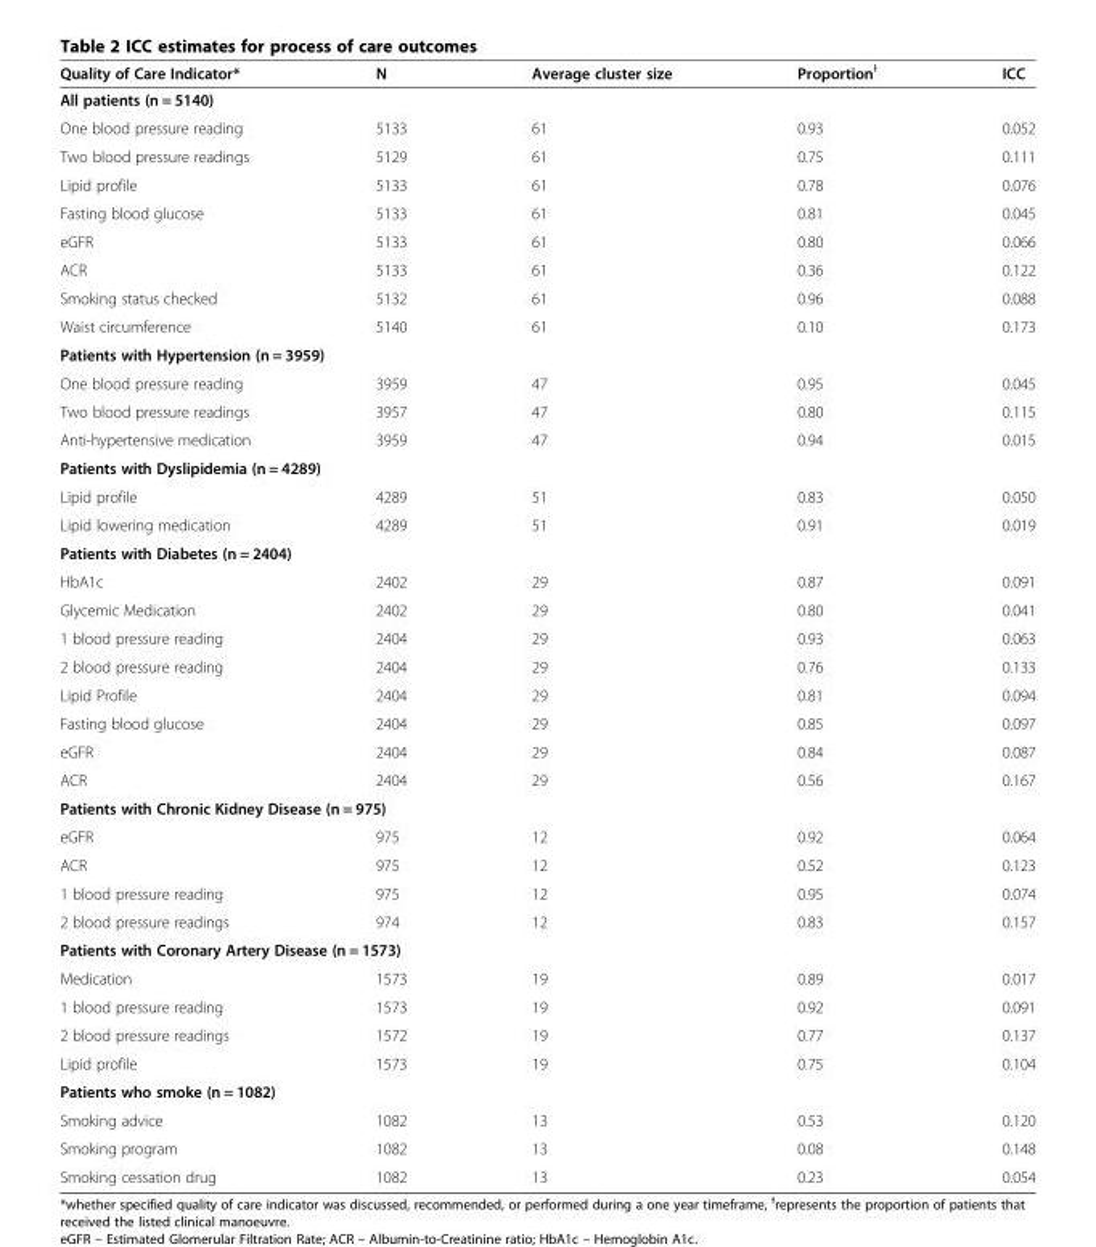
<table><thead><tr><td>Quality of Care Indicator*</td><td>N</td><td>Average cluster size</td><td>Proportion<sup>Ɨ</sup></td><td>ICC</td></tr></thead><tbody><tr><td colspan="5">All patients (n = 5140)</td></tr><tr><td>One blood pressure reading</td><td>5133</td><td>61</td><td>0.93</td><td>0.052</td></tr><tr><td>Two blood pressure readings</td><td>5129</td><td>61</td><td>0.75</td><td>0.111</td></tr><tr><td>Lipid profile</td><td>5133</td><td>61</td><td>0.78</td><td>0.076</td></tr><tr><td>Fasting blood glucose</td><td>5133</td><td>61</td><td>0.81</td><td>0.045</td></tr><tr><td>eGFR</td><td>5133</td><td>61</td><td>0.80</td><td>0.066</td></tr><tr><td>ACR</td><td>5133</td><td>61</td><td>0.36</td><td>0.122</td></tr><tr><td>Smoking status checked</td><td>5132</td><td>61</td><td>0.96</td><td>0.088</td></tr><tr><td>Waist circumference</td><td>5140</td><td>61</td><td>0.10</td><td>0.173</td></tr><tr><td colspan="5">Patients with Hypertension (n = 3959)</td></tr><tr><td>One blood pressure reading</td><td>3959</td><td>47</td><td>0.95</td><td>0.045</td></tr><tr><td>Two blood pressure readings</td><td>3957</td><td>47</td><td>0.80</td><td>0.115</td></tr><tr><td>Anti-hypertensive medication</td><td>3959</td><td>47</td><td>0.94</td><td>0.015</td></tr><tr><td colspan="5">Patients with Dyslipidemia (n = 4289)</td></tr><tr><td>Lipid profile</td><td>4289</td><td>51</td><td>0.83</td><td>0.050</td></tr><tr><td>Lipid lowering medication</td><td>4289</td><td>51</td><td>0.91</td><td>0.019</td></tr><tr><td colspan="5">Patients with Diabetes (n = 2404)</td></tr><tr><td>HbA1c</td><td>2402</td><td>29</td><td>0.87</td><td>0.091</td></tr><tr><td>Glycemic Medication</td><td>2402</td><td>29</td><td>0.80</td><td>0.041</td></tr><tr><td>1 blood pressure reading</td><td>2404</td><td>29</td><td>0.93</td><td>0.063</td></tr><tr><td>2 blood pressure reading</td><td>2404</td><td>29</td><td>0.76</td><td>0.133</td></tr><tr><td>Lipid Profile</td><td>2404</td><td>29</td><td>0.81</td><td>0.094</td></tr><tr><td>Fasting blood glucose</td><td>2404</td><td>29</td><td>0.85</td><td>0.097</td></tr><tr><td>eGFR</td><td>2404</td><td>29</td><td>0.84</td><td>0.087</td></tr><tr><td>ACR</td><td>2404</td><td>29</td><td>0.56</td><td>0.167</td></tr><tr><td colspan="5">Patients with Chronic Kidney Disease (n = 975)</td></tr><tr><td>eGFR</td><td>975</td><td>12</td><td>0.92</td><td>0.064</td></tr><tr><td>ACR</td><td>975</td><td>12</td><td>0.52</td><td>0.123</td></tr><tr><td>1 blood pressure reading</td><td>975</td><td>12</td><td>0.95</td><td>0.074</td></tr><tr><td>2 blood pressure readings</td><td>974</td><td>12</td><td>0.83</td><td>0.157</td></tr><tr><td colspan="5">Patients with Coronary Artery Disease (n = 1573)</td></tr><tr><td>Medication</td><td>1573</td><td>19</td><td>0.89</td><td>0.017</td></tr><tr><td>1 blood pressure reading</td><td>1573</td><td>19</td><td>0.92</td><td>0.091</td></tr><tr><td>2 blood pressure readings</td><td>1572</td><td>19</td><td>0.77</td><td>0.137</td></tr><tr><td>Lipid profile</td><td>1573</td><td>19</td><td>0.75</td><td>0.104</td></tr><tr><td colspan="5">Patients who smoke (n = 1082)</td></tr><tr><td>Smoking advice</td><td>1082</td><td>13</td><td>0.53</td><td>0.120</td></tr><tr><td>Smoking program</td><td>1082</td><td>13</td><td>0.08</td><td>0.148</td></tr><tr><td>Smoking cessation drug</td><td>1082</td><td>13</td><td>0.23</td><td>0.054</td></tr></tbody></table>